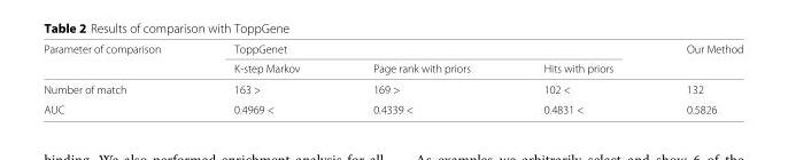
<table><thead><tr><td rowspan="2">Parameter of comparison</td><td colspan="3">ToppGenet</td><td rowspan="2">Our Method</td></tr><tr><td>K-step Markov</td><td>Page rank with priors</td><td>Hits with priors</td></tr></thead><tbody><tr><td>Number of match</td><td>163 &gt;</td><td>169 &gt;</td><td>102 &lt;</td><td>132</td></tr><tr><td>AUC</td><td>0.4969 &lt;</td><td>0.4339 &lt;</td><td>0.4831 &lt;</td><td>0.5826</td></tr></tbody></table>